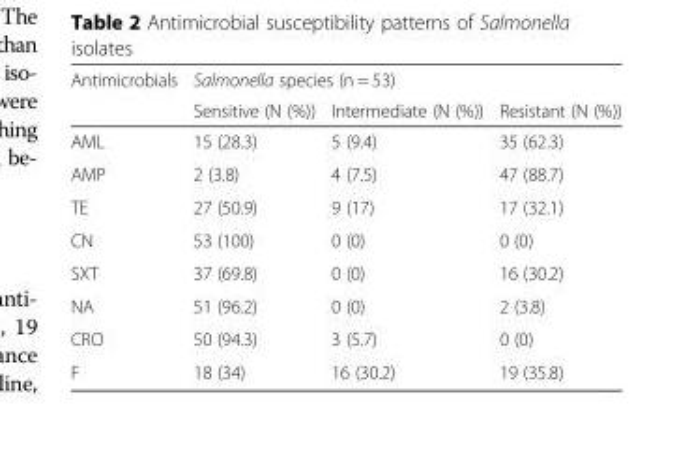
<table><thead><tr><td rowspan="2">Antimicrobials</td><td colspan="3">Salmonella species (n = 53)</td></tr><tr><td>Sensitive (N (%))</td><td>Intermediate (N (%))</td><td>Resistant (N (%))</td></tr></thead><tbody><tr><td>AML</td><td>15 (28.3)</td><td>5 (9.4)</td><td>35 (62.3)</td></tr><tr><td>AMP</td><td>2 (3.8)</td><td>4 (7.5)</td><td>47 (88.7)</td></tr><tr><td>TE</td><td>27 (50.9)</td><td>9 (17)</td><td>17 (32.1)</td></tr><tr><td>CN</td><td>53 (100)</td><td>0 (0)</td><td>0 (0)</td></tr><tr><td>SXT</td><td>37 (69.8)</td><td>0 (0)</td><td>16 (30.2)</td></tr><tr><td>NA</td><td>51 (96.2)</td><td>0 (0)</td><td>2 (3.8)</td></tr><tr><td>CRO</td><td>50 (94.3)</td><td>3 (5.7)</td><td>0 (0)</td></tr><tr><td>F</td><td>18 (34)</td><td>16 (30.2)</td><td>19 (35.8)</td></tr></tbody></table>